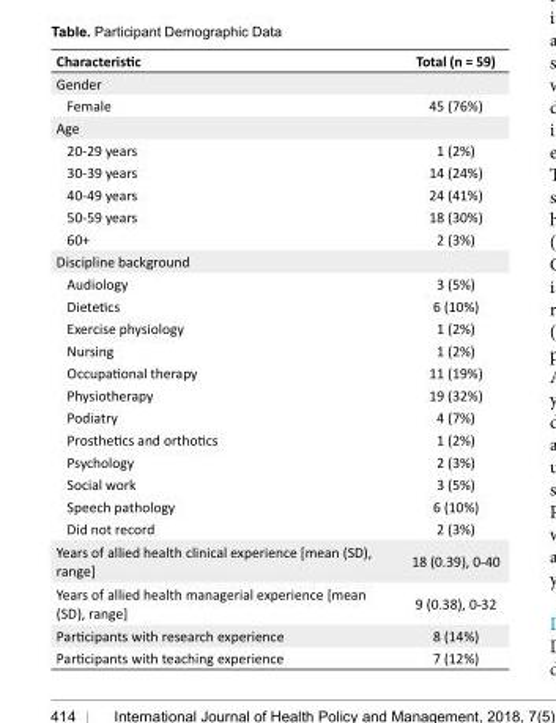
<table><tbody><tr><td>Characteristic</td><td>Total (n = 59)</td></tr><tr><td colspan="2">Gender</td></tr><tr><td>Female</td><td>45 (76%)</td></tr><tr><td colspan="2">Age</td></tr><tr><td>20-29 years</td><td>1 (2%)</td></tr><tr><td>30-39 years</td><td>14 (24%)</td></tr><tr><td>40-49 years</td><td>24 (41%)</td></tr><tr><td>50-59 years</td><td>18 (30%)</td></tr><tr><td>60+</td><td>2 (3%)</td></tr><tr><td colspan="2">Discipline background</td></tr><tr><td>Audiology</td><td>3 (5%)</td></tr><tr><td>Dietetics</td><td>6 (10%)</td></tr><tr><td>Exercise physiology</td><td>1 (2%)</td></tr><tr><td>Nursing</td><td>1 (2%)</td></tr><tr><td>Occupational therapy</td><td>11 (19%)</td></tr><tr><td>Physiotherapy</td><td>19 (32%)</td></tr><tr><td>Podiatry</td><td>4 (7%)</td></tr><tr><td>Prosthetics and orthotics</td><td>1 (2%)</td></tr><tr><td>Psychology</td><td>2 (3%)</td></tr><tr><td>Social work</td><td>3 (5%)</td></tr><tr><td>Speech pathology</td><td>6 (10%)</td></tr><tr><td>Did not record</td><td>2 (3%)</td></tr><tr><td>Years of allied health clinical experience [mean (SD), range]</td><td>18 (0.39), 0-40</td></tr><tr><td>Years of allied health managerial experience [mean (SD), range]</td><td>9 (0.38), 0-32</td></tr><tr><td>Participants with research experience</td><td>8 (14%)</td></tr><tr><td>Participants with teaching experience</td><td>7 (12%)</td></tr></tbody></table>